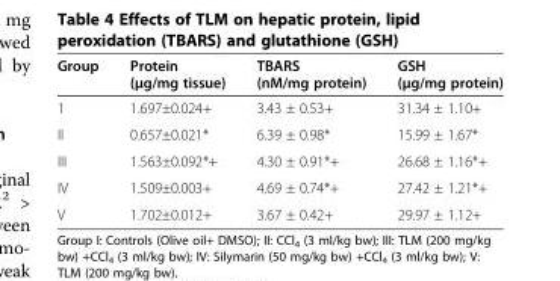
<table><thead><tr><td>Group</td><td>Protein (μg/mg tissue)</td><td>TBARS (nM/mg protein)</td><td>GSH (μg/mg protein)</td></tr></thead><tbody><tr><td>1</td><td>1.697±0.024+</td><td>3.43 ± 0.53+</td><td>31.34 ± 1.10+</td></tr><tr><td>II</td><td>0.657±0.021*</td><td>6.39 ± 0.98*</td><td>15.99 ± 1.67*</td></tr><tr><td>III</td><td>1.563±0.092*+</td><td>4.30 ± 0.91*+</td><td>26.68 ± 1.16*+</td></tr><tr><td>IV</td><td>1.509±0.003+</td><td>4.69 ± 0.74*+</td><td>27.42 ± 1.21*+</td></tr><tr><td>V</td><td>1.702±0.012+</td><td>3.67 ± 0.42+</td><td>29.97 ± 1.12+</td></tr></tbody></table>